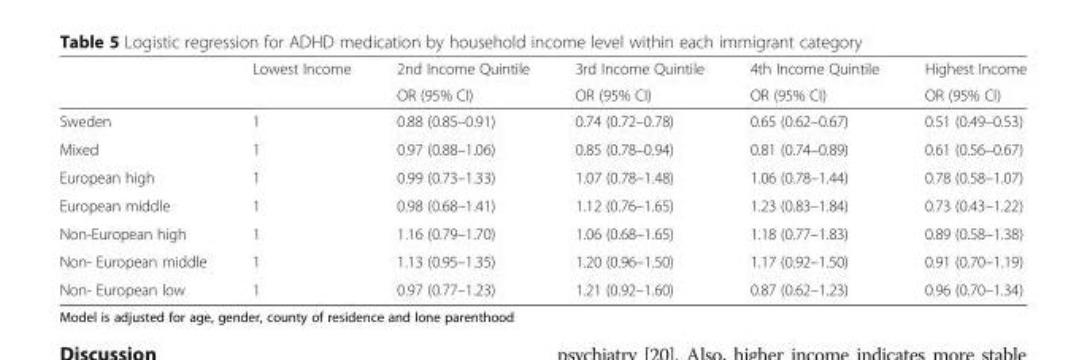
<table><thead><tr><td rowspan="2"></td><td rowspan="2">Lowest Income</td><td rowspan="2">2nd Income Quintile OR (95% CI)</td><td rowspan="2">3rd Income Quintile OR (95% CI)</td><td rowspan="2">4th Income Quintile OR (95% CI)</td><td rowspan="2">Highest Income OR (95% CI)</td></tr><tr></tr></thead><tbody><tr><td>Sweden</td><td>1</td><td>0.88 (0.85–0.91)</td><td>0.74 (0.72–0.78)</td><td>0.65 (0.62–0.67)</td><td>0.51 (0.49–0.53)</td></tr><tr><td>Mixed</td><td>1</td><td>0.97 (0.88–1.06)</td><td>0.85 (0.78–0.94)</td><td>0.81 (0.74–0.89)</td><td>0.61 (0.56–0.67)</td></tr><tr><td>European high</td><td>1</td><td>0.99 (0.73–1.33)</td><td>1.07 (0.78–1.48)</td><td>1.06 (0.78–1.44)</td><td>0.78 (0.58–1.07)</td></tr><tr><td>European middle</td><td>1</td><td>0.98 (0.68–1.41)</td><td>1.12 (0.76–1.65)</td><td>1.23 (0.83–1.84)</td><td>0.73 (0.43–1.22)</td></tr><tr><td>Non-European high</td><td>1</td><td>1.16 (0.79–1.70)</td><td>1.06 (0.68–1.65)</td><td>1.18 (0.77–1.83)</td><td>0.89 (0.58–1.38)</td></tr><tr><td>Non- European middle</td><td>1</td><td>1.13 (0.95–1.35)</td><td>1.20 (0.96–1.50)</td><td>1.17 (0.92–1.50)</td><td>0.91 (0.70–1.19)</td></tr><tr><td>Non- European low</td><td>1</td><td>0.97 (0.77–1.23)</td><td>1.21 (0.92–1.60)</td><td>0.87 (0.62–1.23)</td><td>0.96 (0.70–1.34)</td></tr></tbody></table>